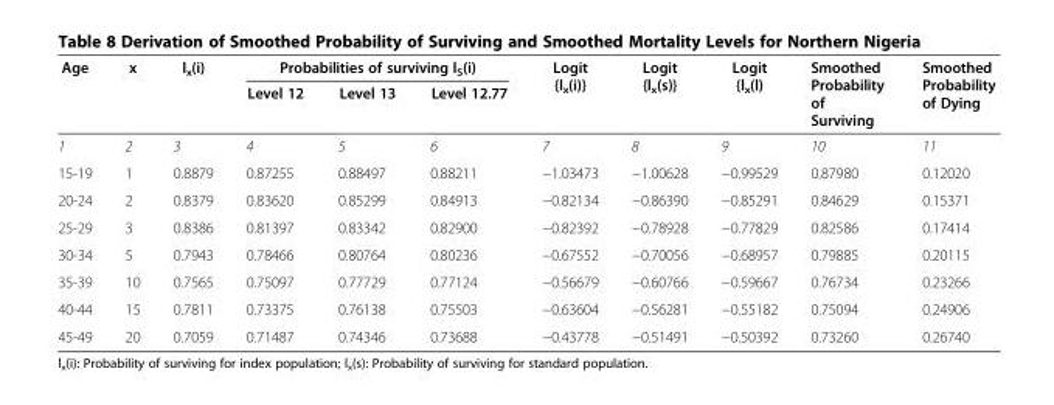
<table><thead><tr><td rowspan="2">Age</td><td rowspan="2">x</td><td rowspan="2">l<sub>x</sub>(i)</td><td colspan="3">Probabilities of surviving l<sub>S</sub>(i)</td><td rowspan="2">Logit {l<sub>x</sub>(i)}</td><td rowspan="2">Logit {l<sub>x</sub>(s)}</td><td rowspan="2">Logit {l<sub>x</sub>(l)</td><td rowspan="2">Smoothed Probability of Surviving</td><td rowspan="2">Smoothed Probability of Dying</td></tr><tr><td>Level 12</td><td>Level 13</td><td>Level 12.77</td></tr></thead><tbody><tr><td>1</td><td>2</td><td>3</td><td>4</td><td>5</td><td>6</td><td>7</td><td>8</td><td>9</td><td>10</td><td>11</td></tr><tr><td>15-19</td><td>1</td><td>0.8879</td><td>0.87255</td><td>0.88497</td><td>0.88211</td><td>−1.03473</td><td>−1.00628</td><td>−0.99529</td><td>0.87980</td><td>0.12020</td></tr><tr><td>20-24</td><td>2</td><td>0.8379</td><td>0.83620</td><td>0.85299</td><td>0.84913</td><td>−0.82134</td><td>−0.86390</td><td>−0.85291</td><td>0.84629</td><td>0.15371</td></tr><tr><td>25-29</td><td>3</td><td>0.8386</td><td>0.81397</td><td>0.83342</td><td>0.82900</td><td>−0.82392</td><td>−0.78928</td><td>−0.77829</td><td>0.82586</td><td>0.17414</td></tr><tr><td>30-34</td><td>5</td><td>0.7943</td><td>0.78466</td><td>0.80764</td><td>0.80236</td><td>−0.67552</td><td>−0.70056</td><td>−0.68957</td><td>0.79885</td><td>0.20115</td></tr><tr><td>35-39</td><td>10</td><td>0.7565</td><td>0.75097</td><td>0.77729</td><td>0.77124</td><td>−0.56679</td><td>−0.60766</td><td>−0.59667</td><td>0.76734</td><td>0.23266</td></tr><tr><td>40-44</td><td>15</td><td>0.7811</td><td>0.73375</td><td>0.76138</td><td>0.75503</td><td>−0.63604</td><td>−0.56281</td><td>−0.55182</td><td>0.75094</td><td>0.24906</td></tr><tr><td>45-49</td><td>20</td><td>0.7059</td><td>0.71487</td><td>0.74346</td><td>0.73688</td><td>−0.43778</td><td>−0.51491</td><td>−0.50392</td><td>0.73260</td><td>0.26740</td></tr></tbody></table>